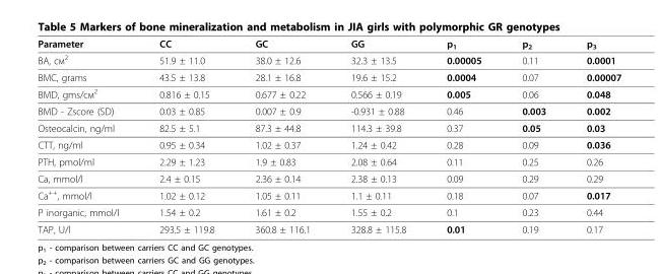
<table><thead><tr><td>Parameter</td><td>CC</td><td>GC</td><td>GG</td><td>p<sub>1</sub></td><td>p<sub>2</sub></td><td>p<sub>3</sub></td></tr></thead><tbody><tr><td>ВА, см<sup>2</sup></td><td>51.9 ± 11.0</td><td>38.0 ± 12.6</td><td>32.3 ± 13.5</td><td>0.00005</td><td>0.11</td><td>0.0001</td></tr><tr><td>BMC, grams</td><td>43.5 ± 13.8</td><td>28.1 ± 16.8</td><td>19.6 ± 15.2</td><td>0.0004</td><td>0.07</td><td>0.00007</td></tr><tr><td>BMD, gms/см<sup>2</sup></td><td>0.816 ± 0.15</td><td>0.677 ± 0.22</td><td>0.566 ± 0.19</td><td>0.005</td><td>0.06</td><td>0.048</td></tr><tr><td>BMD - Zscore (SD)</td><td>0.03 ± 0.85</td><td>0.007 ± 0.9</td><td>-0.931 ± 0.88</td><td>0.46</td><td>0.003</td><td>0.002</td></tr><tr><td>Osteocalcin, ng/ml</td><td>82.5 ± 5.1</td><td>87.3 ± 44.8</td><td>114.3 ± 39.8</td><td>0.37</td><td>0.05</td><td>0.03</td></tr><tr><td>CTТ, ng/ml</td><td>0.95 ± 0.34</td><td>1.02 ± 0.37</td><td>1.24 ± 0.42</td><td>0.28</td><td>0.09</td><td>0.036</td></tr><tr><td>PTH, pmol/ml</td><td>2.29 ± 1.23</td><td>1.9 ± 0.83</td><td>2.08 ± 0.64</td><td>0.11</td><td>0.25</td><td>0.26</td></tr><tr><td>Ca, mmol/l</td><td>2.4 ± 0.15</td><td>2.36 ± 0.14</td><td>2.38 ± 0.13</td><td>0.09</td><td>0.29</td><td>0.29</td></tr><tr><td>Ca<sup>++</sup>, mmol/l</td><td>1.02 ± 0.12</td><td>1.05 ± 0.11</td><td>1.1 ± 0.11</td><td>0.18</td><td>0.07</td><td>0.017</td></tr><tr><td>P inorganic, mmol/l</td><td>1.54 ± 0.2</td><td>1.61 ± 0.2</td><td>1.55 ± 0.2</td><td>0.1</td><td>0.23</td><td>0.44</td></tr><tr><td>TAP, U/l</td><td>293.5 ± 119.8</td><td>360.8 ± 116.1</td><td>328.8 ± 115.8</td><td>0.01</td><td>0.19</td><td>0.17</td></tr></tbody></table>